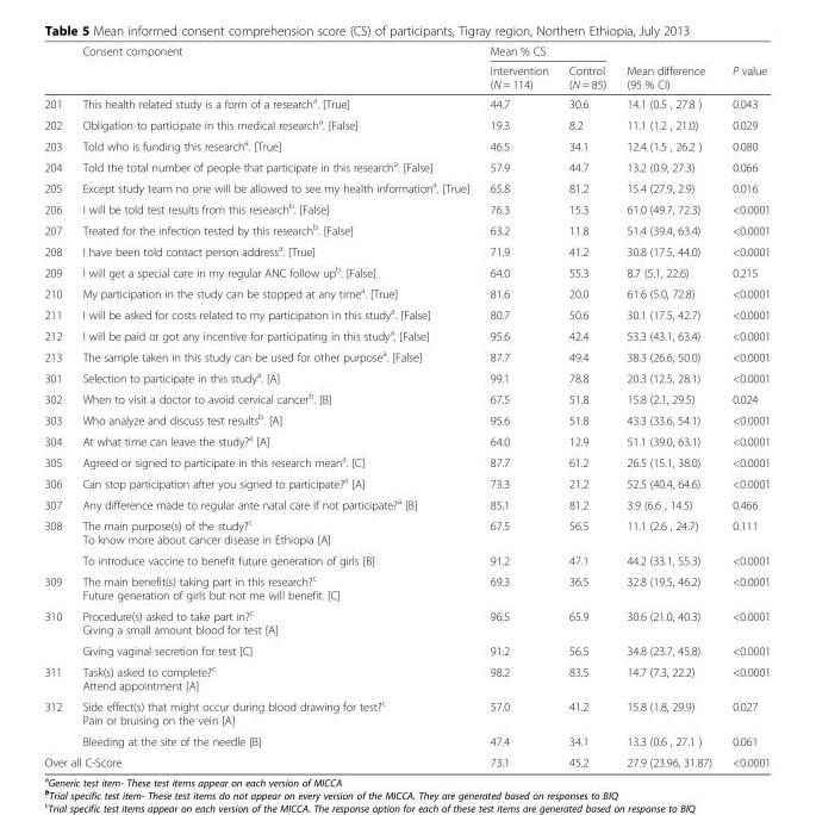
<table><thead><tr><td rowspan="2"></td><td rowspan="2">Consent component</td><td colspan="2">Mean % CS</td><td rowspan="2">Mean difference (95 % CI)</td><td rowspan="2">P value</td></tr><tr><td>Intervention (N = 114)</td><td>Control (N = 85)</td></tr></thead><tbody><tr><td>201</td><td>This health related study is a form of a research<sup>a</sup>. [True]</td><td>44.7</td><td>30.6</td><td>14.1 (0.5 , 27.8 )</td><td>0.043</td></tr><tr><td>202</td><td>Obligation to participate in this medical research<sup>a</sup>. [False]</td><td>19.3</td><td>8.2</td><td>11.1 (1.2 , 21.0)</td><td>0.029</td></tr><tr><td>203</td><td>Told who is funding this research<sup>a</sup>. [True]</td><td>46.5</td><td>34.1</td><td>12.4 (1.5 , 26.2 )</td><td>0.080</td></tr><tr><td>204</td><td>Told the total number of people that participate in this research<sup>a</sup>. [False]</td><td>57.9</td><td>44.7</td><td>13.2 (0.9, 27.3)</td><td>0.066</td></tr><tr><td>205</td><td>Except study team no one will be allowed to see my health information<sup>a</sup>. [True]</td><td>65.8</td><td>81.2</td><td>15.4 (27.9, 2.9)</td><td>0.016</td></tr><tr><td>206</td><td>I will be told test results from this research<sup>b</sup>. [False]</td><td>76.3</td><td>15.3</td><td>61.0 (49.7, 72.3)</td><td>&lt;0.0001</td></tr><tr><td>207</td><td>Treated for the infection tested by this research<sup>b</sup>. [False]</td><td>63.2</td><td>11.8</td><td>51.4 (39.4, 63.4)</td><td>&lt;0.0001</td></tr><tr><td>208</td><td>I have been told contact person address<sup>a</sup>. [True]</td><td>71.9</td><td>41.2</td><td>30.8 (17.5, 44.0)</td><td>&lt;0.0001</td></tr><tr><td>209</td><td>I will get a special care in my regular ANC follow up<sup>b</sup>. [False]</td><td>64.0</td><td>55.3</td><td>8.7 (5.1, 22.6)</td><td>0.215</td></tr><tr><td>210</td><td>My participation in the study can be stopped at any time<sup>a</sup>. [True]</td><td>81.6</td><td>20.0</td><td>61.6 (5.0, 72.8)</td><td>&lt;0.0001</td></tr><tr><td>211</td><td>I will be asked for costs related to my participation in this study<sup>a</sup>. [False]</td><td>80.7</td><td>50.6</td><td>30.1 (17.5, 42.7)</td><td>&lt;0.0001</td></tr><tr><td>212</td><td>I will be paid or got any incentive for participating in this study<sup>a</sup>. [False]</td><td>95.6</td><td>42.4</td><td>53.3 (43.1, 63.4)</td><td>&lt;0.0001</td></tr><tr><td>213</td><td>The sample taken in this study can be used for other purpose<sup>a</sup>. [False]</td><td>87.7</td><td>49.4</td><td>38.3 (26.6, 50.0)</td><td>&lt;0.0001</td></tr><tr><td>301</td><td>Selection to participate in this study<sup>a</sup>. [A]</td><td>99.1</td><td>78.8</td><td>20.3 (12.5, 28.1)</td><td>&lt;0.0001</td></tr><tr><td>302</td><td>When to visit a doctor to avoid cervical cancer<sup>b</sup>. [B]</td><td>67.5</td><td>51.8</td><td>15.8 (2.1, 29.5)</td><td>0.024</td></tr><tr><td>303</td><td>Who analyze and discuss test results<sup>b</sup>. [A]</td><td>95.6</td><td>51.8</td><td>43.3 (33.6, 54.1)</td><td>&lt;0.0001</td></tr><tr><td>304</td><td>At what time can leave the study?<sup>a</sup> [A]</td><td>64.0</td><td>12.9</td><td>51.1 (39.0, 63.1)</td><td>&lt;0.0001</td></tr><tr><td>305</td><td>Agreed or signed to participate in this research mean<sup>a</sup>. [C]</td><td>87.7</td><td>61.2</td><td>26.5 (15.1, 38.0)</td><td>&lt;0.0001</td></tr><tr><td>306</td><td>Can stop participation after you signed to participate?<sup>a</sup> [A]</td><td>73.3</td><td>21.2</td><td>52.5 (40.4, 64.6)</td><td>&lt;0.0001</td></tr><tr><td>307</td><td>Any difference made to regular ante natal care if not participate?<sup>a</sup> [B]</td><td>85.1</td><td>81.2</td><td>3.9 (6.6 , 14.5)</td><td>0.466</td></tr><tr><td rowspan="2">308</td><td>The main purpose(s) of the study?<sup>c</sup> To know more about cancer disease in Ethiopia [A]</td><td>67.5</td><td>56.5</td><td>11.1 (2.6 , 24.7)</td><td>0.111</td></tr><tr><td>To introduce vaccine to benefit future generation of girls [B]</td><td>91.2</td><td>47.1</td><td>44.2 (33.1, 55.3)</td><td>&lt;0.0001</td></tr><tr><td>309</td><td>The main benefit(s) taking part in this research?<sup>c</sup> Future generation of girls but not me will benefit. [C]</td><td>69.3</td><td>36.5</td><td>32.8 (19.5, 46.2)</td><td>&lt;0.0001</td></tr><tr><td rowspan="2">310</td><td>Procedure(s) asked to take part in?<sup>c</sup> Giving a small amount blood for test [A]</td><td>96.5</td><td>65.9</td><td>30.6 (21.0, 40.3)</td><td>&lt;0.0001</td></tr><tr><td>Giving vaginal secretion for test [C]</td><td>91.2</td><td>56.5</td><td>34.8 (23.7, 45.8)</td><td>&lt;0.0001</td></tr><tr><td>311</td><td>Task(s) asked to complete?<sup>c</sup> Attend appointment [A]</td><td>98.2</td><td>83.5</td><td>14.7 (7.3, 22.2)</td><td>&lt;0.0001</td></tr><tr><td rowspan="2">312</td><td>Side effect(s) that might occur during blood drawing for test?<sup>c</sup> Pain or bruising on the vein [A]</td><td>57.0</td><td>41.2</td><td>15.8 (1.8, 29.9)</td><td>0.027</td></tr><tr><td>Bleeding at the site of the needle [B]</td><td>47.4</td><td>34.1</td><td>13.3 (0.6 , 27.1 )</td><td>0.061</td></tr><tr><td colspan="2">Over all C-Score</td><td>73.1</td><td>45.2</td><td>27.9 (23.96, 31.87)</td><td>&lt;0.0001</td></tr></tbody></table>